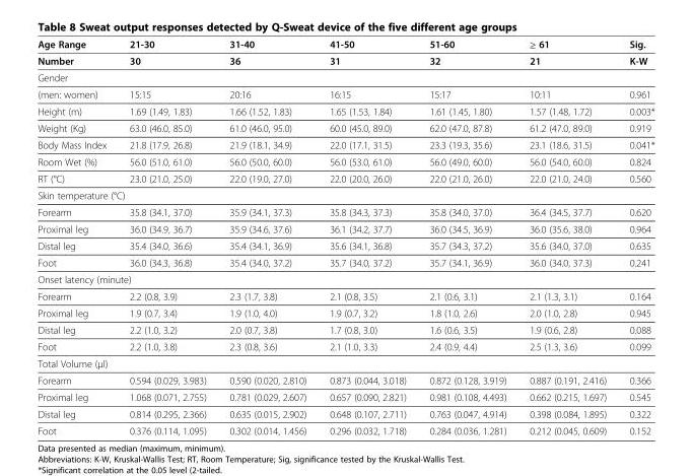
<table><thead><tr><td rowspan="2">Age Range Number</td><td rowspan="2">21-30 30</td><td rowspan="2">31-40 36</td><td rowspan="2">41-50 31</td><td rowspan="2">51-60 32</td><td rowspan="2">≥ 61 21</td><td rowspan="2">Sig. K-W</td></tr><tr></tr></thead><tbody><tr><td colspan="7">Gender</td></tr><tr><td>(men: women)</td><td>15:15</td><td>20:16</td><td>16:15</td><td>15:17</td><td>10:11</td><td>0.961</td></tr><tr><td>Height (m)</td><td>1.69 (1.49, 1.83)</td><td>1.66 (1.52, 1.83)</td><td>1.65 (1.53, 1.84)</td><td>1.61 (1.45, 1.80)</td><td>1.57 (1.48, 1.72)</td><td>0.003*</td></tr><tr><td>Weight (Kg)</td><td>63.0 (46.0, 85.0)</td><td>61.0 (46.0, 95.0)</td><td>60.0 (45.0, 89.0)</td><td>62.0 (47.0, 87.8)</td><td>61.2 (47.0, 89.0)</td><td>0.919</td></tr><tr><td>Body Mass Index</td><td>21.8 (17.9, 26.8)</td><td>21.9 (18.1, 34.9)</td><td>22.0 (17.1, 31.5)</td><td>23.3 (19.3, 35.6)</td><td>23.1 (18.6, 31.5)</td><td>0.041*</td></tr><tr><td>Room Wet (%)</td><td>56.0 (51.0, 61.0)</td><td>56.0 (50.0, 60.0)</td><td>56.0 (53.0, 61.0)</td><td>56.0 (49.0, 60.0)</td><td>56.0 (54.0, 60.0)</td><td>0.824</td></tr><tr><td>RT (°C)</td><td>23.0 (21.0, 25.0)</td><td>22.0 (19.0, 27.0)</td><td>22.0 (20.0, 26.0)</td><td>22.0 (21.0, 26.0)</td><td>22.0 (21.0, 24.0)</td><td>0.560</td></tr><tr><td colspan="7">Skin temperature (°C)</td></tr><tr><td>Forearm</td><td>35.8 (34.1, 37.0)</td><td>35.9 (34.1, 37.3)</td><td>35.8 (34.3, 37.3)</td><td>35.8 (34.0, 37.0)</td><td>36.4 (34.5, 37.7)</td><td>0.620</td></tr><tr><td>Proximal leg</td><td>36.0 (34.9, 36.7)</td><td>35.9 (34.6, 37.6)</td><td>36.1 (34.2, 37.7)</td><td>36.0 (34.5, 36.9)</td><td>36.0 (35.6, 38.0)</td><td>0.964</td></tr><tr><td>Distal leg</td><td>35.4 (34.0, 36.6)</td><td>35.4 (34.1, 36.9)</td><td>35.6 (34.1, 36.8)</td><td>35.7 (34.3, 37.2)</td><td>35.6 (34.0, 37.0)</td><td>0.635</td></tr><tr><td>Foot</td><td>36.0 (34.3, 36.8)</td><td>35.4 (34.0, 37.2)</td><td>35.7 (34.0, 37.2)</td><td>35.7 (34.1, 36.9)</td><td>36.0 (34.0, 37.3)</td><td>0.241</td></tr><tr><td colspan="7">Onset latency (minute)</td></tr><tr><td>Forearm</td><td>2.2 (0.8, 3.9)</td><td>2.3 (1.7, 3.8)</td><td>2.1 (0.8, 3.5)</td><td>2.1 (0.6, 3.1)</td><td>2.1 (1.3, 3.1)</td><td>0.164</td></tr><tr><td>Proximal leg</td><td>1.9 (0.7, 3.4)</td><td>1.9 (1.0, 4.0)</td><td>1.9 (0.7, 3.2)</td><td>1.8 (1.0, 2.6)</td><td>2.0 (1.0, 2.8)</td><td>0.945</td></tr><tr><td>Distal leg</td><td>2.2 (1.0, 3.2)</td><td>2.0 (0.7, 3.8)</td><td>1.7 (0.8, 3.0)</td><td>1.6 (0.6, 3.5)</td><td>1.9 (0.6, 2.8)</td><td>0.088</td></tr><tr><td>Foot</td><td>2.2 (1.0, 3.8)</td><td>2.3 (0.8, 3.6)</td><td>2.1 (1.0, 3.3)</td><td>2.4 (0.9, 4.4)</td><td>2.5 (1.3, 3.6)</td><td>0.099</td></tr><tr><td colspan="7">Total Volume (μl)</td></tr><tr><td>Forearm</td><td>0.594 (0.029, 3.983)</td><td>0.590 (0.020, 2.810)</td><td>0.873 (0.044, 3.018)</td><td>0.872 (0.128, 3.919)</td><td>0.887 (0.191, 2.416)</td><td>0.366</td></tr><tr><td>Proximal leg</td><td>1.068 (0.071, 2.755)</td><td>0.781 (0.029, 2.607)</td><td>0.657 (0.090, 2.821)</td><td>0.981 (0.108, 4.493)</td><td>0.662 (0.215, 1.697)</td><td>0.545</td></tr><tr><td>Distal leg</td><td>0.814 (0.295, 2.366)</td><td>0.635 (0.015, 2.902)</td><td>0.648 (0.107, 2.711)</td><td>0.763 (0.047, 4.914)</td><td>0.398 (0.084, 1.895)</td><td>0.322</td></tr><tr><td>Foot</td><td>0.376 (0.114, 1.095)</td><td>0.302 (0.014, 1.456)</td><td>0.296 (0.032, 1.718)</td><td>0.284 (0.036, 1.281)</td><td>0.212 (0.045, 0.609)</td><td>0.152</td></tr></tbody></table>